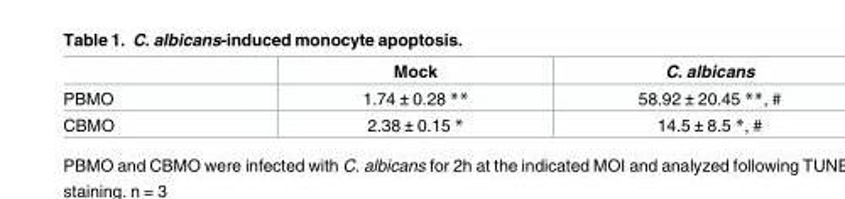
<table><thead><tr><td></td><td>Mock</td><td>C. albicans</td></tr></thead><tbody><tr><td>PBMO</td><td>1.74 ± 0.28 **</td><td>58.92 ± 20.45 **, #</td></tr><tr><td>CBMO</td><td>2.38 ± 0.15 *</td><td>14.5 ± 8.5 *, #</td></tr></tbody></table>